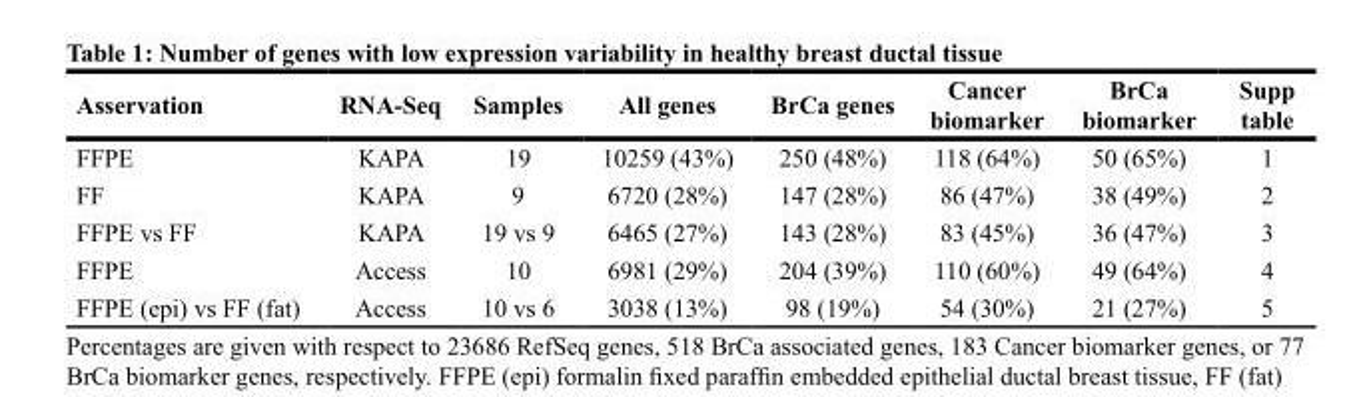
<table><thead><tr><td>Asservation</td><td>RNA-Seq</td><td>Samples</td><td>All genes</td><td>BrCa genes</td><td>Cancer biomarker</td><td>BrCa biomarker</td><td>Supp table</td></tr></thead><tbody><tr><td>FFPE</td><td>KAPA</td><td>19</td><td>10259 (43%)</td><td>250 (48%)</td><td>118 (64%)</td><td>50 (65%)</td><td>1</td></tr><tr><td>FF</td><td>KAPA</td><td>9</td><td>6720 (28%)</td><td>147 (28%)</td><td>86 (47%)</td><td>38 (49%)</td><td>2</td></tr><tr><td>FFPE vs FF</td><td>KAPA</td><td>19 vs 9</td><td>6465 (27%)</td><td>143 (28%)</td><td>83 (45%)</td><td>36 (47%)</td><td>3</td></tr><tr><td>FFPE</td><td>Access</td><td>10</td><td>6981 (29%)</td><td>204 (39%)</td><td>110 (60%)</td><td>49 (64%)</td><td>4</td></tr><tr><td>FFPE (epi) vs FF (fat)</td><td>Access</td><td>10 vs 6</td><td>3038 (13%)</td><td>98 (19%)</td><td>54 (30%)</td><td>21 (27%)</td><td>5</td></tr></tbody></table>